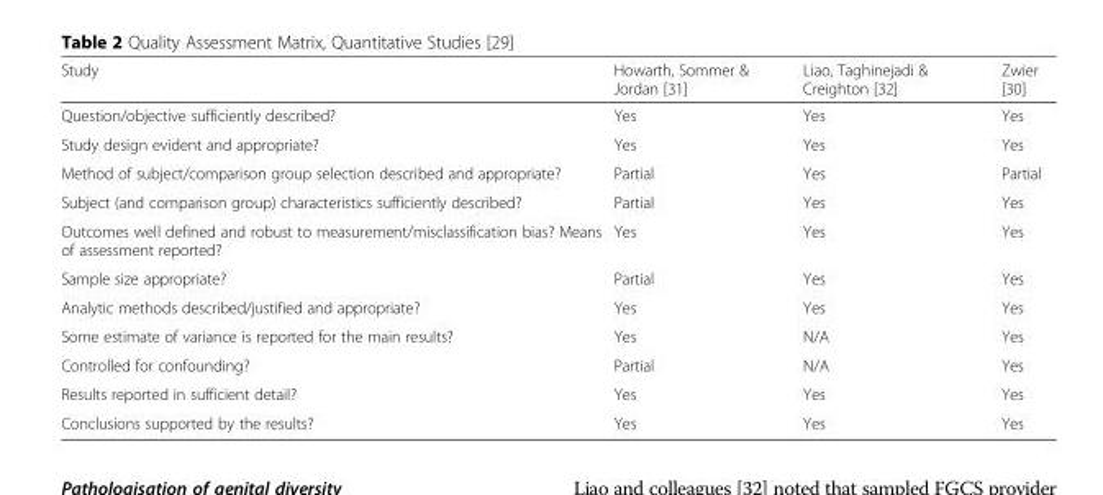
<table><thead><tr><td>Study</td><td>Howarth, Sommer &amp; Jordan [31]</td><td>Liao, Taghinejadi &amp; Creighton [32]</td><td>Zwier [30]</td></tr></thead><tbody><tr><td>Question/objective sufficiently described?</td><td>Yes</td><td>Yes</td><td>Yes</td></tr><tr><td>Study design evident and appropriate?</td><td>Yes</td><td>Yes</td><td>Yes</td></tr><tr><td>Method of subject/comparison group selection described and appropriate?</td><td>Partial</td><td>Yes</td><td>Partial</td></tr><tr><td>Subject (and comparison group) characteristics sufficiently described?</td><td>Partial</td><td>Yes</td><td>Yes</td></tr><tr><td>Outcomes well defined and robust to measurement/misclassification bias? Means of assessment reported?</td><td>Yes</td><td>Yes</td><td>Yes</td></tr><tr><td>Sample size appropriate?</td><td>Partial</td><td>Yes</td><td>Yes</td></tr><tr><td>Analytic methods described/justified and appropriate?</td><td>Yes</td><td>Yes</td><td>Yes</td></tr><tr><td>Some estimate of variance is reported for the main results?</td><td>Yes</td><td>N/A</td><td>Yes</td></tr><tr><td>Controlled for confounding?</td><td>Partial</td><td>N/A</td><td>Yes</td></tr><tr><td>Results reported in sufficient detail?</td><td>Yes</td><td>Yes</td><td>Yes</td></tr><tr><td>Conclusions supported by the results?</td><td>Yes</td><td>Yes</td><td>Yes</td></tr></tbody></table>